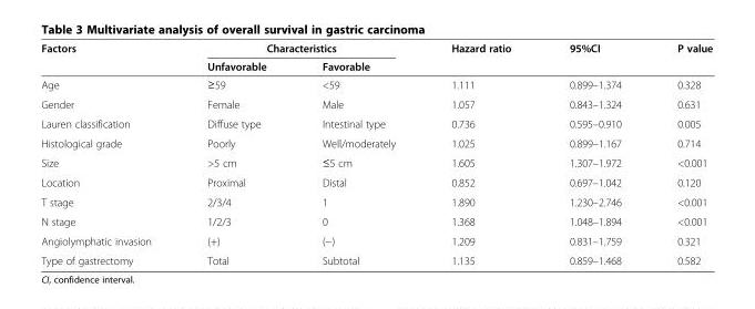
<table><thead><tr><td rowspan="2">Factors</td><td colspan="2">Characteristics</td><td rowspan="2">Hazard ratio</td><td rowspan="2">95%CI</td><td rowspan="2">P value</td></tr><tr><td>Unfavorable</td><td>Favorable</td></tr></thead><tbody><tr><td>Age</td><td>≥59</td><td>&lt;59</td><td>1.111</td><td>0.899–1.374</td><td>0.328</td></tr><tr><td>Gender</td><td>Female</td><td>Male</td><td>1.057</td><td>0.843–1.324</td><td>0.631</td></tr><tr><td>Lauren classification</td><td>Diffuse type</td><td>Intestinal type</td><td>0.736</td><td>0.595–0.910</td><td>0.005</td></tr><tr><td>Histological grade</td><td>Poorly</td><td>Well/moderately</td><td>1.025</td><td>0.899–1.167</td><td>0.714</td></tr><tr><td>Size</td><td>&gt;5 cm</td><td>≤5 cm</td><td>1.605</td><td>1.307–1.972</td><td>&lt;0.001</td></tr><tr><td>Location</td><td>Proximal</td><td>Distal</td><td>0.852</td><td>0.697–1.042</td><td>0.120</td></tr><tr><td>T stage</td><td>2/3/4</td><td>1</td><td>1.890</td><td>1.230–2.746</td><td>&lt;0.001</td></tr><tr><td>N stage</td><td>1/2/3</td><td>0</td><td>1.368</td><td>1.048–1.894</td><td>&lt;0.001</td></tr><tr><td>Angiolymphatic invasion</td><td>(+)</td><td>(−)</td><td>1.209</td><td>0.831–1.759</td><td>0.321</td></tr><tr><td>Type of gastrectomy</td><td>Total</td><td>Subtotal</td><td>1.135</td><td>0.859–1.468</td><td>0.582</td></tr></tbody></table>